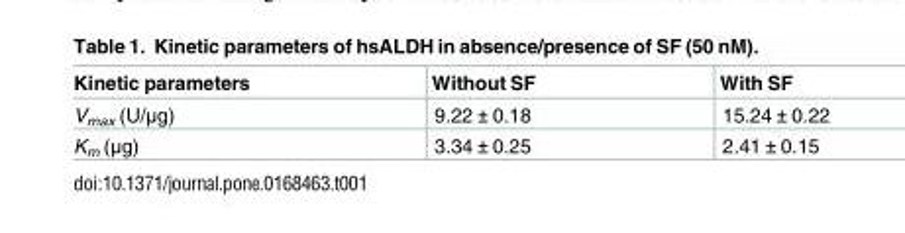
<table><thead><tr><td>Kinetic parameters</td><td>Without SF</td><td>With SF</td></tr></thead><tbody><tr><td>V<sub>max</sub> (U/μg)</td><td>9.22 ± 0.18</td><td>15.24 ± 0.22</td></tr><tr><td>K<sub>m</sub> (μg)</td><td>3.34 ± 0.25</td><td>2.41 ± 0.15</td></tr></tbody></table>